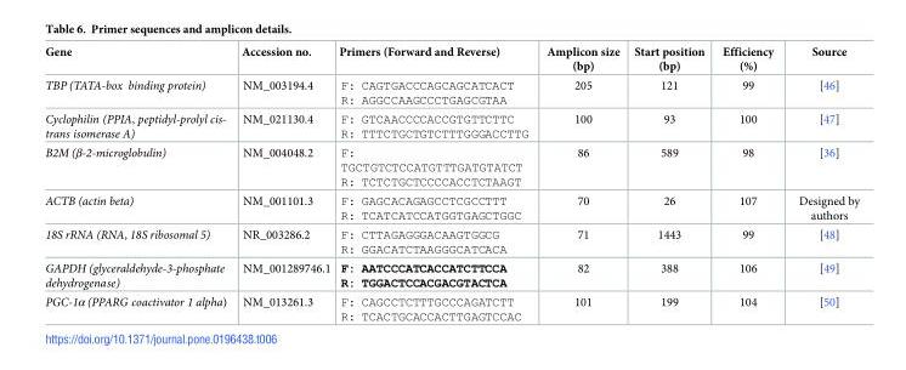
<table><thead><tr><td>Gene</td><td>Accession no.</td><td>Primers (Forward and Reverse)</td><td>Amplicon size (bp)</td><td>Start position (bp)</td><td>Efficiency (%)</td><td>Source</td></tr></thead><tbody><tr><td>TBP (TATA-box binding protein)</td><td>NM_003194.4</td><td>F: CAGTGACCCAGCAGCATCACT R: AGGCCAAGCCCTGAGCGTAA</td><td>205</td><td>121</td><td>99</td><td>[46]</td></tr><tr><td>Cyclophilin (PPIA, peptidyl-prolyl cis- trans isomerase A)</td><td>NM_021130.4</td><td>F: GTCAACCCCACCGTGTTCTTC R: TTTCTGCTGTCTTTGGGACCTTG</td><td>100</td><td>93</td><td>100</td><td>[47]</td></tr><tr><td>B2M (β-2-microglobulin)</td><td>NM_004048.2</td><td>F: TGCTGTCTCCATGTTTGATGTATCT R: TCTCTGCTCCCCACCTCTAAGT</td><td>86</td><td>589</td><td>98</td><td>[36]</td></tr><tr><td>ACTB (actin beta)</td><td>NM_001101.3</td><td>F: GAGCACAGAGCCTCGCCTTT R: TCATCATCCATGGTGAGCTGGC</td><td>70</td><td>26</td><td>107</td><td>Designed by authors</td></tr><tr><td>18S rRNA (RNA, 18S ribosomal 5)</td><td>NR_003286.2</td><td>F: CTTAGAGGGACAAGTGGCG R: GGACATCTAAGGGCATCACA</td><td>71</td><td>1443</td><td>99</td><td>[48]</td></tr><tr><td>GAPDH (glyceraldehyde-3-phosphate dehydrogenase)</td><td>NM_001289746.1</td><td>F: AATCCCATCACCATCTTCCA R: TGGACTCCACGACGTACTCA</td><td>82</td><td>388</td><td>106</td><td>[49]</td></tr><tr><td>PGC-1α (PPARG coactivator 1 alpha)</td><td>NM_013261.3</td><td>F: CAGCCTCTTTGCCCAGATCTT R: TCACTGCACCACTTGAGTCCAC</td><td>101</td><td>199</td><td>104</td><td>[50]</td></tr></tbody></table>